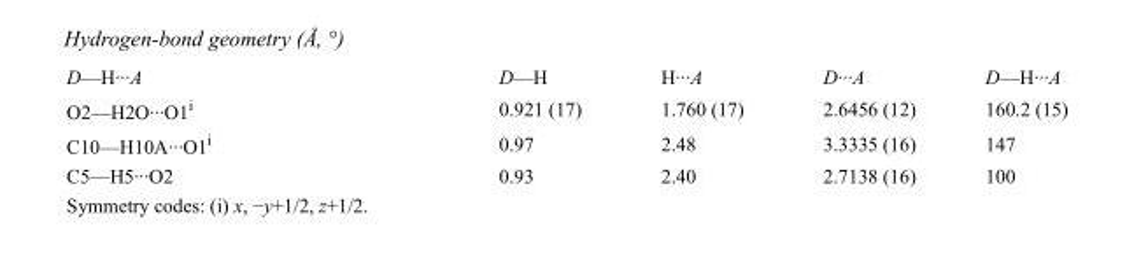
<table><tbody><tr><td>D—H···A</td><td>D—H</td><td>H···A</td><td>D···A</td><td>D—H···A</td></tr><tr><td>O2—H2O···O1<sup>i</sup></td><td>0.921 (17)</td><td>1.760 (17)</td><td>2.6456 (12)</td><td>160.2 (15)</td></tr><tr><td>C10—H10A···O1<sup>i</sup></td><td>0.97</td><td>2.48</td><td>3.3335 (16)</td><td>147</td></tr><tr><td>C5—H5···O2</td><td>0.93</td><td>2.40</td><td>2.7138 (16)</td><td>100</td></tr></tbody></table>